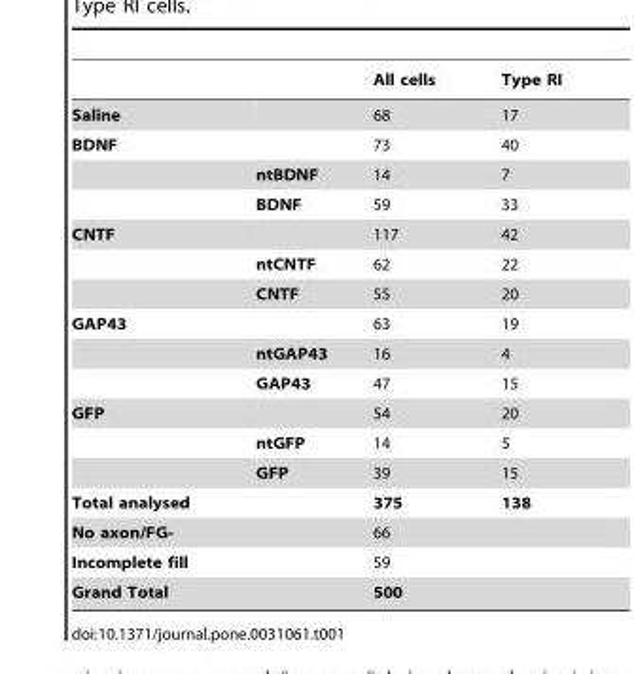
<table><thead><tr><td></td><td></td><td>All cells</td><td>Type RI</td></tr></thead><tbody><tr><td>Saline</td><td></td><td>68</td><td>17</td></tr><tr><td rowspan="3">BDNF</td><td></td><td>73</td><td>40</td></tr><tr><td>ntBDNF</td><td>14</td><td>7</td></tr><tr><td>BDNF</td><td>59</td><td>33</td></tr><tr><td rowspan="3">CNTF</td><td></td><td>117</td><td>42</td></tr><tr><td>ntCNTF</td><td>62</td><td>22</td></tr><tr><td>CNTF</td><td>55</td><td>20</td></tr><tr><td rowspan="3">GAP43</td><td></td><td>63</td><td>19</td></tr><tr><td>ntGAP43</td><td>16</td><td>4</td></tr><tr><td>GAP43</td><td>47</td><td>15</td></tr><tr><td rowspan="3">GFP</td><td></td><td>54</td><td>20</td></tr><tr><td>ntGFP</td><td>14</td><td>5</td></tr><tr><td>GFP</td><td>39</td><td>15</td></tr><tr><td colspan="2">Total analysed</td><td>375</td><td>138</td></tr><tr><td colspan="2">No axon/FG-</td><td>66</td><td></td></tr><tr><td colspan="2">Incomplete fill</td><td>59</td><td></td></tr><tr><td colspan="2">Grand Total</td><td>500</td><td></td></tr></tbody></table>